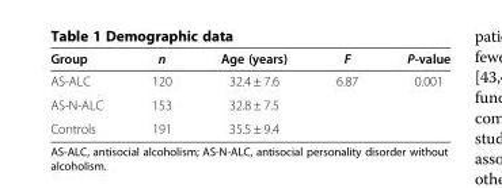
<table><thead><tr><td>Group</td><td>n</td><td>Age (years)</td><td>F</td><td>P-value</td></tr></thead><tbody><tr><td>AS-ALC</td><td>120</td><td>32.4 ± 7.6</td><td>6.87</td><td>0.001</td></tr><tr><td>AS-N-ALC</td><td>153</td><td>32.8 ± 7.5</td><td></td><td></td></tr><tr><td>Controls</td><td>191</td><td>35.5 ± 9.4</td><td></td><td></td></tr></tbody></table>